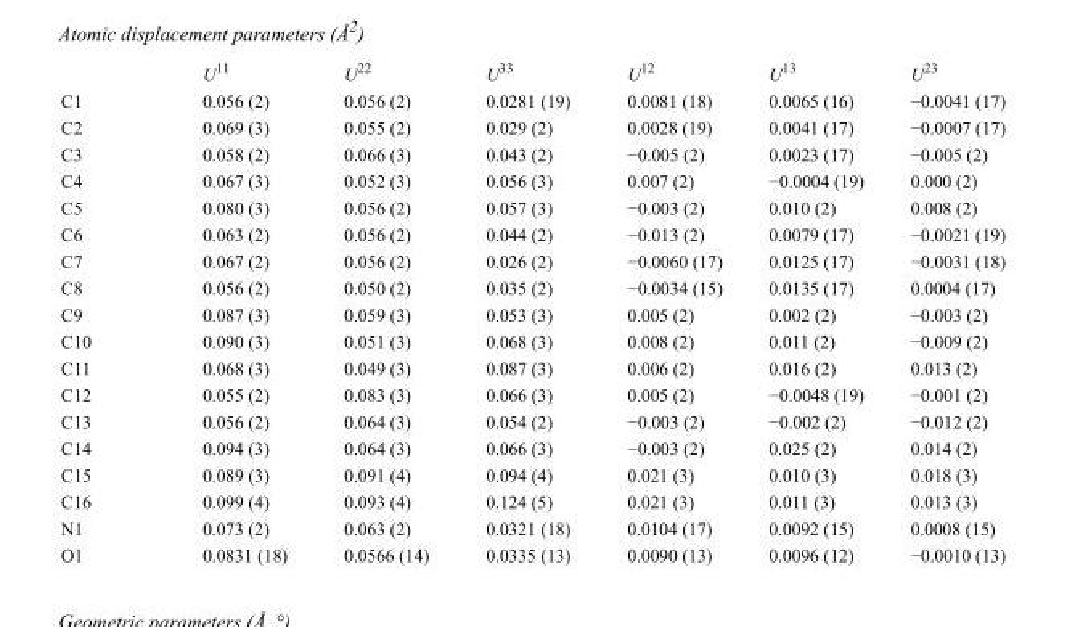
<table><thead><tr><td></td><td>U<sup>11</sup></td><td>U<sup>22</sup></td><td>U<sup>33</sup></td><td>U<sup>12</sup></td><td>U<sup>13</sup></td><td>U<sup>23</sup></td></tr></thead><tbody><tr><td>C1</td><td>0.056 (2)</td><td>0.056 (2)</td><td>0.0281 (19)</td><td>0.0081 (18)</td><td>0.0065 (16)</td><td>−0.0041 (17)</td></tr><tr><td>C2</td><td>0.069 (3)</td><td>0.055 (2)</td><td>0.029 (2)</td><td>0.0028 (19)</td><td>0.0041 (17)</td><td>−0.0007 (17)</td></tr><tr><td>C3</td><td>0.058 (2)</td><td>0.066 (3)</td><td>0.043 (2)</td><td>−0.005 (2)</td><td>0.0023 (17)</td><td>−0.005 (2)</td></tr><tr><td>C4</td><td>0.067 (3)</td><td>0.052 (3)</td><td>0.056 (3)</td><td>0.007 (2)</td><td>−0.0004 (19)</td><td>0.000 (2)</td></tr><tr><td>C5</td><td>0.080 (3)</td><td>0.056 (2)</td><td>0.057 (3)</td><td>−0.003 (2)</td><td>0.010 (2)</td><td>0.008 (2)</td></tr><tr><td>C6</td><td>0.063 (2)</td><td>0.056 (2)</td><td>0.044 (2)</td><td>−0.013 (2)</td><td>0.0079 (17)</td><td>−0.0021 (19)</td></tr><tr><td>C7</td><td>0.067 (2)</td><td>0.056 (2)</td><td>0.026 (2)</td><td>−0.0060 (17)</td><td>0.0125 (17)</td><td>−0.0031 (18)</td></tr><tr><td>C8</td><td>0.056 (2)</td><td>0.050 (2)</td><td>0.035 (2)</td><td>−0.0034 (15)</td><td>0.0135 (17)</td><td>0.0004 (17)</td></tr><tr><td>C9</td><td>0.087 (3)</td><td>0.059 (3)</td><td>0.053 (3)</td><td>0.005 (2)</td><td>0.002 (2)</td><td>−0.003 (2)</td></tr><tr><td>C10</td><td>0.090 (3)</td><td>0.051 (3)</td><td>0.068 (3)</td><td>0.008 (2)</td><td>0.011 (2)</td><td>−0.009 (2)</td></tr><tr><td>C11</td><td>0.068 (3)</td><td>0.049 (3)</td><td>0.087 (3)</td><td>0.006 (2)</td><td>0.016 (2)</td><td>0.013 (2)</td></tr><tr><td>C12</td><td>0.055 (2)</td><td>0.083 (3)</td><td>0.066 (3)</td><td>0.005 (2)</td><td>−0.0048 (19)</td><td>−0.001 (2)</td></tr><tr><td>C13</td><td>0.056 (2)</td><td>0.064 (3)</td><td>0.054 (2)</td><td>−0.003 (2)</td><td>−0.002 (2)</td><td>−0.012 (2)</td></tr><tr><td>C14</td><td>0.094 (3)</td><td>0.064 (3)</td><td>0.066 (3)</td><td>−0.003 (2)</td><td>0.025 (2)</td><td>0.014 (2)</td></tr><tr><td>C15</td><td>0.089 (3)</td><td>0.091 (4)</td><td>0.094 (4)</td><td>0.021 (3)</td><td>0.010 (3)</td><td>0.018 (3)</td></tr><tr><td>C16</td><td>0.099 (4)</td><td>0.093 (4)</td><td>0.124 (5)</td><td>0.021 (3)</td><td>0.011 (3)</td><td>0.013 (3)</td></tr><tr><td>N1</td><td>0.073 (2)</td><td>0.063 (2)</td><td>0.0321 (18)</td><td>0.0104 (17)</td><td>0.0092 (15)</td><td>0.0008 (15)</td></tr><tr><td>O1</td><td>0.0831 (18)</td><td>0.0566 (14)</td><td>0.0335 (13)</td><td>0.0090 (13)</td><td>0.0096 (12)</td><td>−0.0010 (13)</td></tr></tbody></table>